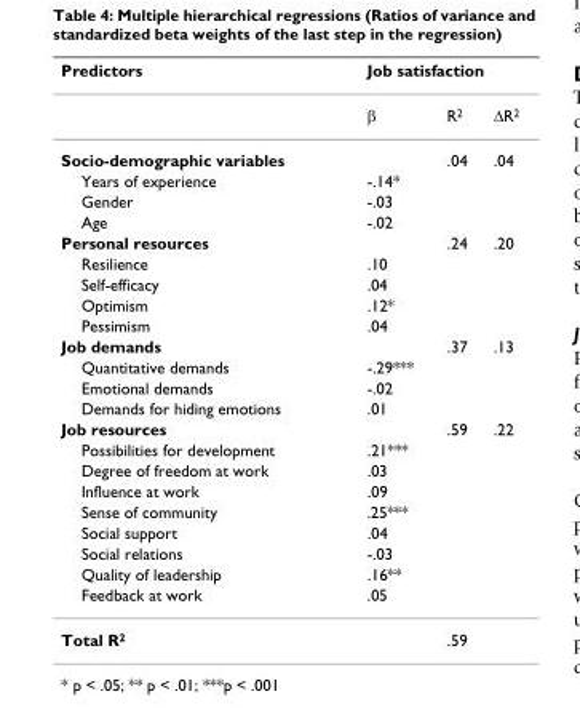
<table><thead><tr><td rowspan="2">Predictors</td><td colspan="3">Job satisfaction</td></tr><tr><td>β</td><td>R<sup>2</sup></td><td>ΔR<sup>2</sup></td></tr></thead><tbody><tr><td>Socio-demographic variables</td><td></td><td>.04</td><td>.04</td></tr><tr><td>Years of experience</td><td>-.14*</td><td></td><td></td></tr><tr><td>Gender</td><td>-.03</td><td></td><td></td></tr><tr><td>Age</td><td>-.02</td><td></td><td></td></tr><tr><td>Personal resources</td><td></td><td>.24</td><td>.20</td></tr><tr><td>Resilience</td><td>.10</td><td></td><td></td></tr><tr><td>Self-efficacy</td><td>.04</td><td></td><td></td></tr><tr><td>Optimism</td><td>.12*</td><td></td><td></td></tr><tr><td>Pessimism</td><td>.04</td><td></td><td></td></tr><tr><td>Job demands</td><td></td><td>.37</td><td>.13</td></tr><tr><td>Quantitative demands</td><td>-.29***</td><td></td><td></td></tr><tr><td>Emotional demands</td><td>-.02</td><td></td><td></td></tr><tr><td>Demands for hiding emotions</td><td>.01</td><td></td><td></td></tr><tr><td>Job resources</td><td></td><td>.59</td><td>.22</td></tr><tr><td>Possibilities for development</td><td>.21***</td><td></td><td></td></tr><tr><td>Degree of freedom at work</td><td>.03</td><td></td><td></td></tr><tr><td>Influence at work</td><td>.09</td><td></td><td></td></tr><tr><td>Sense of community</td><td>.25***</td><td></td><td></td></tr><tr><td>Social support</td><td>.04</td><td></td><td></td></tr><tr><td>Social relations</td><td>-.03</td><td></td><td></td></tr><tr><td>Quality of leadership</td><td>.16**</td><td></td><td></td></tr><tr><td>Feedback at work</td><td>.05</td><td></td><td></td></tr><tr><td>Total R<sup>2</sup></td><td></td><td>.59</td><td></td></tr></tbody></table>